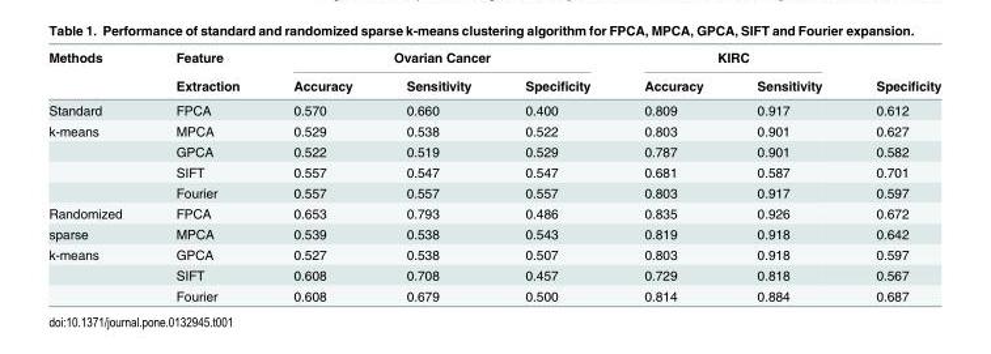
<table><thead><tr><td rowspan="2">Methods</td><td rowspan="2">Feature Extraction</td><td colspan="3">Ovarian Cancer</td><td colspan="2">KIRC</td><td rowspan="2">Specificity</td></tr><tr><td>Accuracy</td><td>Sensitivity</td><td>Specificity</td><td>Accuracy</td><td>Sensitivity</td></tr></thead><tbody><tr><td>Standard</td><td>FPCA</td><td>0.570</td><td>0.660</td><td>0.400</td><td>0.809</td><td>0.917</td><td>0.612</td></tr><tr><td rowspan="4">k-means</td><td>MPCA</td><td>0.529</td><td>0.538</td><td>0.522</td><td>0.803</td><td>0.901</td><td>0.627</td></tr><tr><td>GPCA</td><td>0.522</td><td>0.519</td><td>0.529</td><td>0.787</td><td>0.901</td><td>0.582</td></tr><tr><td>SIFT</td><td>0.557</td><td>0.547</td><td>0.547</td><td>0.681</td><td>0.587</td><td>0.701</td></tr><tr><td>Fourier</td><td>0.557</td><td>0.557</td><td>0.557</td><td>0.803</td><td>0.917</td><td>0.597</td></tr><tr><td>Randomized</td><td>FPCA</td><td>0.653</td><td>0.793</td><td>0.486</td><td>0.835</td><td>0.926</td><td>0.672</td></tr><tr><td>sparse</td><td>MPCA</td><td>0.539</td><td>0.538</td><td>0.543</td><td>0.819</td><td>0.918</td><td>0.642</td></tr><tr><td rowspan="3">k-means</td><td>GPCA</td><td>0.527</td><td>0.538</td><td>0.507</td><td>0.803</td><td>0.918</td><td>0.597</td></tr><tr><td>SIFT</td><td>0.608</td><td>0.708</td><td>0.457</td><td>0.729</td><td>0.818</td><td>0.567</td></tr><tr><td>Fourier</td><td>0.608</td><td>0.679</td><td>0.500</td><td>0.814</td><td>0.884</td><td>0.687</td></tr></tbody></table>